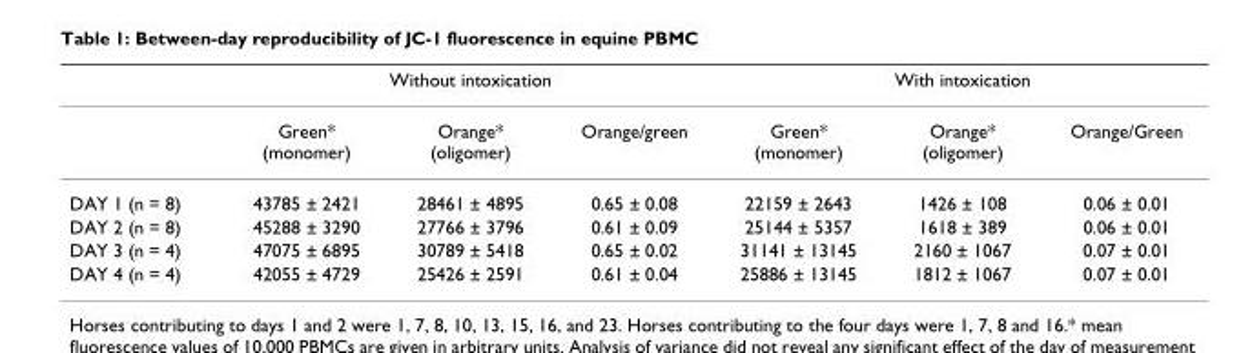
<table><thead><tr><td rowspan="2"></td><td colspan="3">Without intoxication</td><td colspan="3">With intoxication</td></tr><tr><td>Green* (monomer)</td><td>Orange* (oligomer)</td><td>Orange/green</td><td>Green* (monomer)</td><td>Orange* (oligomer)</td><td>Orange/Green</td></tr></thead><tbody><tr><td>DAY 1 (n = 8)</td><td>43785 ± 2421</td><td>28461 ± 4895</td><td>0.65 ± 0.08</td><td>22159 ± 2643</td><td>1426 ± 108</td><td>0.06 ± 0.01</td></tr><tr><td>DAY 2 (n = 8)</td><td>45288 ± 3290</td><td>27766 ± 3796</td><td>0.61 ± 0.09</td><td>25144 ± 5357</td><td>1618 ± 389</td><td>0.06 ± 0.01</td></tr><tr><td>DAY 3 (n = 4)</td><td>47075 ± 6895</td><td>30789 ± 5418</td><td>0.65 ± 0.02</td><td>31141 ± 13145</td><td>2160 ± 1067</td><td>0.07 ± 0.01</td></tr><tr><td>DAY 4 (n = 4)</td><td>42055 ± 4729</td><td>25426 ± 2591</td><td>0.61 ± 0.04</td><td>25886 ± 13145</td><td>1812 ± 1067</td><td>0.07 ± 0.01</td></tr></tbody></table>